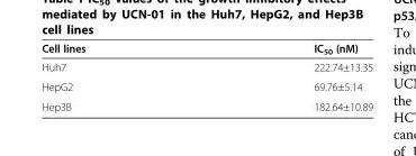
<table><thead><tr><td>Cell lines</td><td>IC<sub>50</sub> (nM)</td></tr></thead><tbody><tr><td>Huh7</td><td>222.74±13.35</td></tr><tr><td>HepG2</td><td>69.76±5.14</td></tr><tr><td>Hep3B</td><td>182.64±10.89</td></tr></tbody></table>